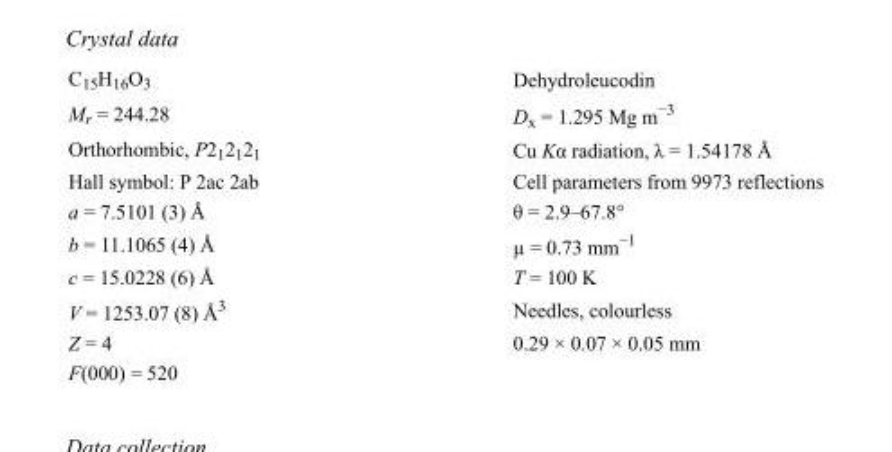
<table><tbody><tr><td>C<sub>15</sub>H<sub>16</sub>O<sub>3</sub></td><td>Dehydroleucodin</td></tr><tr><td>M<sub>r</sub> = 244.28</td><td>D<sub>x</sub> = 1.295 Mg m<sup>−3</sup></td></tr><tr><td>Orthorhombic, P2<sub>1</sub>2<sub>1</sub>2<sub>1</sub></td><td>Cu Kα radiation, λ = 1.54178 Å</td></tr><tr><td>Hall symbol: P 2ac 2ab</td><td>Cell parameters from 9973 reflections</td></tr><tr><td>a = 7.5101 (3) Å</td><td>θ = 2.9–67.8°</td></tr><tr><td>b = 11.1065 (4) Å</td><td>µ = 0.73 mm<sup>−1</sup></td></tr><tr><td>c = 15.0228 (6) Å</td><td>T = 100 K</td></tr><tr><td>V = 1253.07 (8) Å<sup>3</sup></td><td>Needles, colourless</td></tr><tr><td>Z = 4</td><td>0.29 × 0.07 × 0.05 mm</td></tr><tr><td>F(000) = 520</td><td></td></tr></tbody></table>